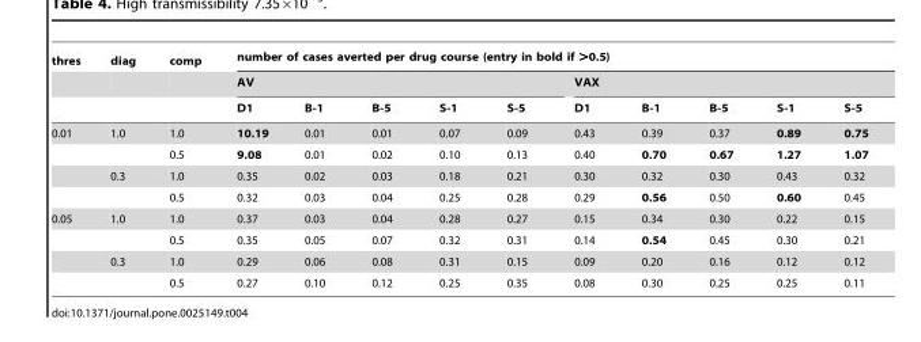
<table><thead><tr><td rowspan="3">thres</td><td rowspan="3">diag</td><td rowspan="3">comp</td><td colspan="10">number of cases averted per drug course (entry in bold if &gt;0.5)</td></tr><tr><td colspan="5">AV</td><td colspan="5">VAX</td></tr><tr><td>D1</td><td>B-1</td><td>B-5</td><td>S-1</td><td>S-5</td><td>D1</td><td>B-1</td><td>B-5</td><td>S-1</td><td>S-5</td></tr></thead><tbody><tr><td rowspan="4">0.01</td><td>1.0</td><td>1.0</td><td>10.19</td><td>0.01</td><td>0.01</td><td>0.07</td><td>0.09</td><td>0.43</td><td>0.39</td><td>0.37</td><td>0.89</td><td>0.75</td></tr><tr><td></td><td>0.5</td><td>9.08</td><td>0.01</td><td>0.02</td><td>0.10</td><td>0.13</td><td>0.40</td><td>0.70</td><td>0.67</td><td>1.27</td><td>1.07</td></tr><tr><td>0.3</td><td>1.0</td><td>0.35</td><td>0.02</td><td>0.03</td><td>0.18</td><td>0.21</td><td>0.30</td><td>0.32</td><td>0.30</td><td>0.43</td><td>0.32</td></tr><tr><td></td><td>0.5</td><td>0.32</td><td>0.03</td><td>0.04</td><td>0.25</td><td>0.28</td><td>0.29</td><td>0.56</td><td>0.50</td><td>0.60</td><td>0.45</td></tr><tr><td rowspan="4">0.05</td><td>1.0</td><td>1.0</td><td>0.37</td><td>0.03</td><td>0.04</td><td>0.28</td><td>0.27</td><td>0.15</td><td>0.34</td><td>0.30</td><td>0.22</td><td>0.15</td></tr><tr><td></td><td>0.5</td><td>0.35</td><td>0.05</td><td>0.07</td><td>0.32</td><td>0.31</td><td>0.14</td><td>0.54</td><td>0.45</td><td>0.30</td><td>0.21</td></tr><tr><td>0.3</td><td>1.0</td><td>0.29</td><td>0.06</td><td>0.08</td><td>0.31</td><td>0.15</td><td>0.09</td><td>0.20</td><td>0.16</td><td>0.12</td><td>0.12</td></tr><tr><td></td><td>0.5</td><td>0.27</td><td>0.10</td><td>0.12</td><td>0.25</td><td>0.35</td><td>0.08</td><td>0.30</td><td>0.25</td><td>0.25</td><td>0.11</td></tr></tbody></table>